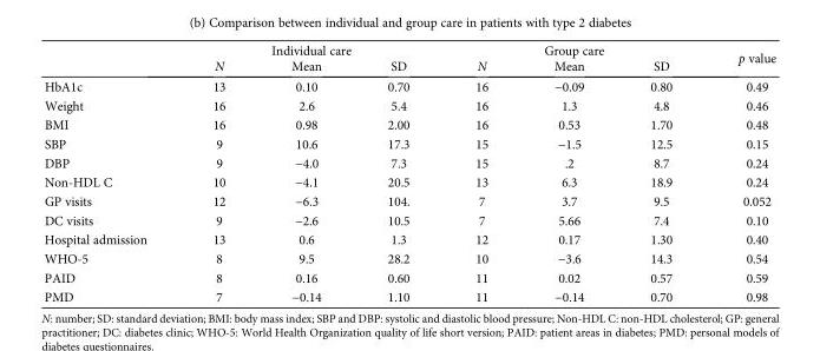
<table><thead><tr><td rowspan="2"></td><td colspan="3">Individual care</td><td colspan="3">Group care</td><td rowspan="2">p value</td></tr><tr><td>N</td><td>Mean</td><td>SD</td><td>N</td><td>Mean</td><td>SD</td></tr></thead><tbody><tr><td>HbA1c</td><td>13</td><td>0.10</td><td>0.70</td><td>16</td><td>−0.09</td><td>0.80</td><td>0.49</td></tr><tr><td>Weight</td><td>16</td><td>2.6</td><td>5.4</td><td>16</td><td>1.3</td><td>4.8</td><td>0.46</td></tr><tr><td>BMI</td><td>16</td><td>0.98</td><td>2.00</td><td>16</td><td>0.53</td><td>1.70</td><td>0.48</td></tr><tr><td>SBP</td><td>9</td><td>10.6</td><td>17.3</td><td>15</td><td>−1.5</td><td>12.5</td><td>0.15</td></tr><tr><td>DBP</td><td>9</td><td>−4.0</td><td>7.3</td><td>15</td><td>.2</td><td>8.7</td><td>0.24</td></tr><tr><td>Non-HDL C</td><td>10</td><td>−4.1</td><td>20.5</td><td>13</td><td>6.3</td><td>18.9</td><td>0.24</td></tr><tr><td>GP visits</td><td>12</td><td>−6.3</td><td>104.</td><td>7</td><td>3.7</td><td>9.5</td><td>0.052</td></tr><tr><td>DC visits</td><td>9</td><td>−2.6</td><td>10.5</td><td>7</td><td>5.66</td><td>7.4</td><td>0.10</td></tr><tr><td>Hospital admission</td><td>13</td><td>0.6</td><td>1.3</td><td>12</td><td>0.17</td><td>1.30</td><td>0.40</td></tr><tr><td>WHO-5</td><td>8</td><td>9.5</td><td>28.2</td><td>10</td><td>−3.6</td><td>14.3</td><td>0.54</td></tr><tr><td>PAID</td><td>8</td><td>0.16</td><td>0.60</td><td>11</td><td>0.02</td><td>0.57</td><td>0.59</td></tr><tr><td>PMD</td><td>7</td><td>−0.14</td><td>1.10</td><td>11</td><td>−0.14</td><td>0.70</td><td>0.98</td></tr></tbody></table>